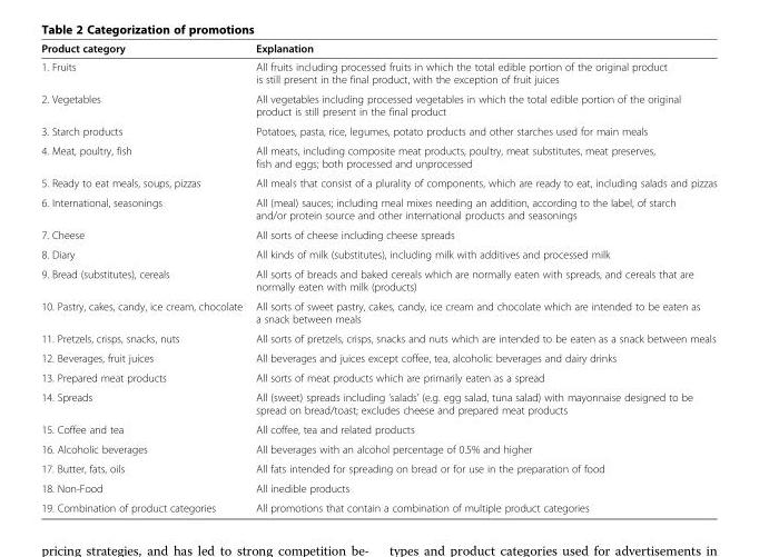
<table><thead><tr><td>Product category</td><td>Explanation</td></tr></thead><tbody><tr><td>1. Fruits</td><td>All fruits including processed fruits in which the total edible portion of the original product is still present in the final product, with the exception of fruit juices</td></tr><tr><td>2. Vegetables</td><td>All vegetables including processed vegetables in which the total edible portion of the original product is still present in the final product</td></tr><tr><td>3. Starch products</td><td>Potatoes, pasta, rice, legumes, potato products and other starches used for main meals</td></tr><tr><td>4. Meat, poultry, fish</td><td>All meats, including composite meat products, poultry, meat substitutes, meat preserves, fish and eggs; both processed and unprocessed</td></tr><tr><td>5. Ready to eat meals, soups, pizzas</td><td>All meals that consist of a plurality of components, which are ready to eat, including salads and pizzas</td></tr><tr><td>6. International, seasonings</td><td>All (meal) sauces; including meal mixes needing an addition, according to the label, of starch and/or protein source and other international products and seasonings</td></tr><tr><td>7. Cheese</td><td>All sorts of cheese including cheese spreads</td></tr><tr><td>8. Diary</td><td>All kinds of milk (substitutes), including milk with additives and processed milk</td></tr><tr><td>9. Bread (substitutes), cereals</td><td>All sorts of breads and baked cereals which are normally eaten with spreads, and cereals that are normally eaten with milk (products)</td></tr><tr><td>10. Pastry, cakes, candy, ice cream, chocolate</td><td>All sorts of sweet pastry, cakes, candy, ice cream and chocolate which are intended to be eaten as a snack between meals</td></tr><tr><td>11. Pretzels, crisps, snacks, nuts</td><td>All sorts of pretzels, crisps, snacks and nuts which are intended to be eaten as a snack between meals</td></tr><tr><td>12. Beverages, fruit juices</td><td>All beverages and juices except coffee, tea, alcoholic beverages and dairy drinks</td></tr><tr><td>13. Prepared meat products</td><td>All sorts of meat products which are primarily eaten as a spread</td></tr><tr><td>14. Spreads</td><td>All (sweet) spreads including ‘salads’ (e.g. egg salad, tuna salad) with mayonnaise designed to be spread on bread/toast; excludes cheese and prepared meat products</td></tr><tr><td>15. Coffee and tea</td><td>All coffee, tea and related products</td></tr><tr><td>16. Alcoholic beverages</td><td>All beverages with an alcohol percentage of 0.5% and higher</td></tr><tr><td>17. Butter, fats, oils</td><td>All fats intended for spreading on bread or for use in the preparation of food</td></tr><tr><td>18. Non-Food</td><td>All inedible products</td></tr><tr><td>19. Combination of product categories</td><td>All promotions that contain a combination of multiple product categories</td></tr></tbody></table>